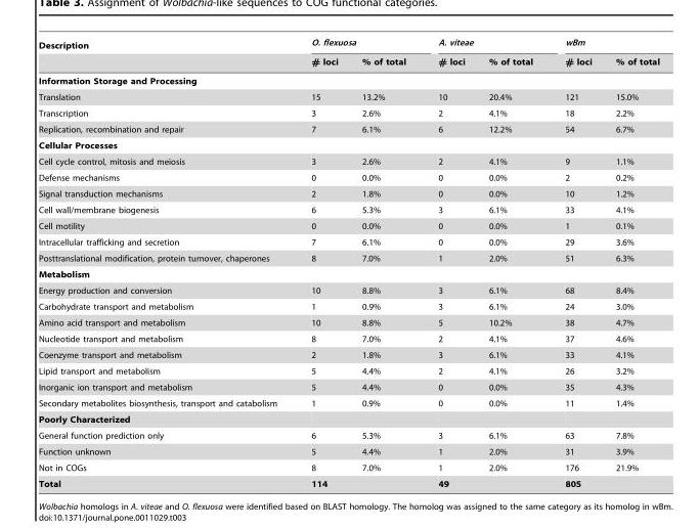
<table><thead><tr><td rowspan="2">Description</td><td colspan="2">O. flexuosa</td><td colspan="2">A. viteae</td><td colspan="2">wBm</td></tr><tr><td># loci</td><td>% of total</td><td># loci</td><td>% of total</td><td># loci</td><td>% of total</td></tr></thead><tbody><tr><td colspan="7">Information Storage and Processing</td></tr><tr><td>Translation</td><td>15</td><td>13.2%</td><td>10</td><td>20.4%</td><td>121</td><td>15.0%</td></tr><tr><td>Transcription</td><td>3</td><td>2.6%</td><td>2</td><td>4.1%</td><td>18</td><td>2.2%</td></tr><tr><td>Replication, recombination and repair</td><td>7</td><td>6.1%</td><td>6</td><td>12.2%</td><td>54</td><td>6.7%</td></tr><tr><td colspan="7">Cellular Processes</td></tr><tr><td>Cell cycle control, mitosis and meiosis</td><td>3</td><td>2.6%</td><td>2</td><td>4.1%</td><td>9</td><td>1.1%</td></tr><tr><td>Defense mechanisms</td><td>0</td><td>0.0%</td><td>0</td><td>0.0%</td><td>2</td><td>0.2%</td></tr><tr><td>Signal transduction mechanisms</td><td>2</td><td>1.8%</td><td>0</td><td>0.0%</td><td>10</td><td>1.2%</td></tr><tr><td>Cell wall/membrane biogenesis</td><td>6</td><td>5.3%</td><td>3</td><td>6.1%</td><td>33</td><td>4.1%</td></tr><tr><td>Cell motility</td><td>0</td><td>0.0%</td><td>0</td><td>0.0%</td><td>1</td><td>0.1%</td></tr><tr><td>Intracellular trafficking and secretion</td><td>7</td><td>6.1%</td><td>0</td><td>0.0%</td><td>29</td><td>3.6%</td></tr><tr><td>Posttranslational modification, protein turnover, chaperones</td><td>8</td><td>7.0%</td><td>1</td><td>2.0%</td><td>51</td><td>6.3%</td></tr><tr><td colspan="7">Metabolism</td></tr><tr><td>Energy production and conversion</td><td>10</td><td>8.8%</td><td>3</td><td>6.1%</td><td>68</td><td>8.4%</td></tr><tr><td>Carbohydrate transport and metabolism</td><td>1</td><td>0.9%</td><td>3</td><td>6.1%</td><td>24</td><td>3.0%</td></tr><tr><td>Amino acid transport and metabolism</td><td>10</td><td>8.8%</td><td>5</td><td>10.2%</td><td>38</td><td>4.7%</td></tr><tr><td>Nucleotide transport and metabolism</td><td>8</td><td>7.0%</td><td>2</td><td>4.1%</td><td>37</td><td>4.6%</td></tr><tr><td>Coenzyme transport and metabolism</td><td>2</td><td>1.8%</td><td>3</td><td>6.1%</td><td>33</td><td>4.1%</td></tr><tr><td>Lipid transport and metabolism</td><td>5</td><td>4.4%</td><td>2</td><td>4.1%</td><td>26</td><td>3.2%</td></tr><tr><td>Inorganic ion transport and metabolism</td><td>5</td><td>4.4%</td><td>0</td><td>0.0%</td><td>35</td><td>4.3%</td></tr><tr><td>Secondary metabolites biosynthesis, transport and catabolism</td><td>1</td><td>0.9%</td><td>0</td><td>0.0%</td><td>11</td><td>1.4%</td></tr><tr><td colspan="7">Poorly Characterized</td></tr><tr><td>General function prediction only</td><td>6</td><td>5.3%</td><td>3</td><td>6.1%</td><td>63</td><td>7.8%</td></tr><tr><td>Function unknown</td><td>5</td><td>4.4%</td><td>1</td><td>2.0%</td><td>31</td><td>3.9%</td></tr><tr><td>Not in COGs</td><td>8</td><td>7.0%</td><td>1</td><td>2.0%</td><td>176</td><td>21.9%</td></tr><tr><td>Total</td><td>114</td><td></td><td>49</td><td></td><td>805</td><td></td></tr></tbody></table>